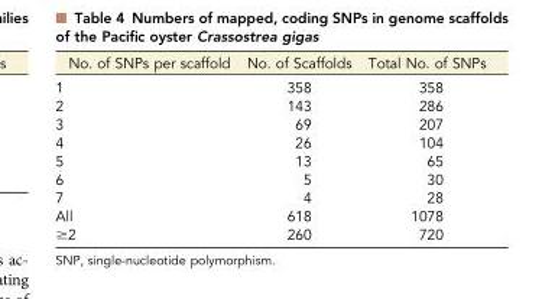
<table><thead><tr><td>No. of SNPs per scaffold</td><td>No. of Scaffolds</td><td>Total No. of SNPs</td></tr></thead><tbody><tr><td>1</td><td>358</td><td>358</td></tr><tr><td>2</td><td>143</td><td>286</td></tr><tr><td>3</td><td>69</td><td>207</td></tr><tr><td>4</td><td>26</td><td>104</td></tr><tr><td>5</td><td>13</td><td>65</td></tr><tr><td>6</td><td>5</td><td>30</td></tr><tr><td>7</td><td>4</td><td>28</td></tr><tr><td>All</td><td>618</td><td>1078</td></tr><tr><td>≥2</td><td>260</td><td>720</td></tr></tbody></table>